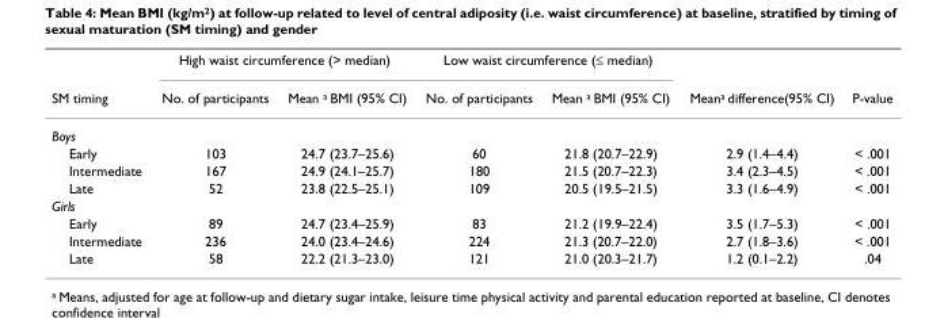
<table><thead><tr><td rowspan="2">SM timing</td><td colspan="2">High waist circumference (&gt; median)</td><td colspan="2">Low waist circumference (≤ median)</td><td rowspan="2">Mean<sup>a</sup> difference(95% CI)</td><td rowspan="2">P-value</td></tr><tr><td>No. of participants</td><td>Mean <sup>a</sup> BMI (95% CI)</td><td>No. of participants</td><td>Mean <sup>a</sup> BMI (95% CI)</td></tr></thead><tbody><tr><td colspan="7">Boys</td></tr><tr><td>Early</td><td>103</td><td>24.7 (23.7–25.6)</td><td>60</td><td>21.8 (20.7–22.9)</td><td>2.9 (1.4–4.4)</td><td>&lt; .001</td></tr><tr><td>Intermediate</td><td>167</td><td>24.9 (24.1–25.7)</td><td>180</td><td>21.5 (20.7–22.3)</td><td>3.4 (2.3–4.5)</td><td>&lt; .001</td></tr><tr><td>Late</td><td>52</td><td>23.8 (22.5–25.1)</td><td>109</td><td>20.5 (19.5–21.5)</td><td>3.3 (1.6–4.9)</td><td>&lt; .001</td></tr><tr><td colspan="7">Girls</td></tr><tr><td>Early</td><td>89</td><td>24.7 (23.4–25.9)</td><td>83</td><td>21.2 (19.9–22.4)</td><td>3.5 (1.7–5.3)</td><td>&lt; .001</td></tr><tr><td>Intermediate</td><td>236</td><td>24.0 (23.4–24.6)</td><td>224</td><td>21.3 (20.7–22.0)</td><td>2.7 (1.8–3.6)</td><td>&lt; .001</td></tr><tr><td>Late</td><td>58</td><td>22.2 (21.3–23.0)</td><td>121</td><td>21.0 (20.3–21.7)</td><td>1.2 (0.1–2.2)</td><td>.04</td></tr></tbody></table>